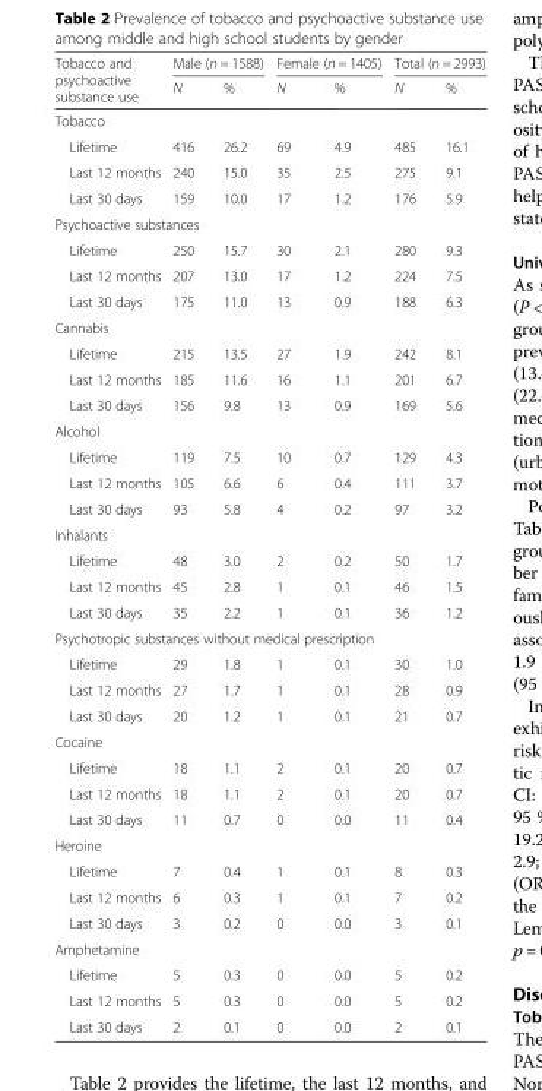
<table><thead><tr><td rowspan="2">Tobacco and psychoactive substance use</td><td colspan="2">Male (n = 1588)</td><td colspan="2">Female (n = 1405)</td><td colspan="2">Total (n = 2993)</td></tr><tr><td>N</td><td>%</td><td>N</td><td>%</td><td>N</td><td>%</td></tr></thead><tbody><tr><td colspan="7">Tobacco</td></tr><tr><td>Lifetime</td><td>416</td><td>26.2</td><td>69</td><td>4.9</td><td>485</td><td>16.1</td></tr><tr><td>Last 12 months</td><td>240</td><td>15.0</td><td>35</td><td>2.5</td><td>275</td><td>9.1</td></tr><tr><td>Last 30 days</td><td>159</td><td>10.0</td><td>17</td><td>1.2</td><td>176</td><td>5.9</td></tr><tr><td colspan="7">Psychoactive substances</td></tr><tr><td>Lifetime</td><td>250</td><td>15.7</td><td>30</td><td>2.1</td><td>280</td><td>9.3</td></tr><tr><td>Last 12 months</td><td>207</td><td>13.0</td><td>17</td><td>1.2</td><td>224</td><td>7.5</td></tr><tr><td>Last 30 days</td><td>175</td><td>11.0</td><td>13</td><td>0.9</td><td>188</td><td>6.3</td></tr><tr><td colspan="7">Cannabis</td></tr><tr><td>Lifetime</td><td>215</td><td>13.5</td><td>27</td><td>1.9</td><td>242</td><td>8.1</td></tr><tr><td>Last 12 months</td><td>185</td><td>11.6</td><td>16</td><td>1.1</td><td>201</td><td>6.7</td></tr><tr><td>Last 30 days</td><td>156</td><td>9.8</td><td>13</td><td>0.9</td><td>169</td><td>5.6</td></tr><tr><td colspan="7">Alcohol</td></tr><tr><td>Lifetime</td><td>119</td><td>7.5</td><td>10</td><td>0.7</td><td>129</td><td>4.3</td></tr><tr><td>Last 12 months</td><td>105</td><td>6.6</td><td>6</td><td>0.4</td><td>111</td><td>3.7</td></tr><tr><td>Last 30 days</td><td>93</td><td>5.8</td><td>4</td><td>0.2</td><td>97</td><td>3.2</td></tr><tr><td colspan="7">Inhalants</td></tr><tr><td>Lifetime</td><td>48</td><td>3.0</td><td>2</td><td>0.2</td><td>50</td><td>1.7</td></tr><tr><td>Last 12 months</td><td>45</td><td>2.8</td><td>1</td><td>0.1</td><td>46</td><td>1.5</td></tr><tr><td>Last 30 days</td><td>35</td><td>2.2</td><td>1</td><td>0.1</td><td>36</td><td>1.2</td></tr><tr><td colspan="7">Psychotropic substances without medical prescription</td></tr><tr><td>Lifetime</td><td>29</td><td>1.8</td><td>1</td><td>0.1</td><td>30</td><td>1.0</td></tr><tr><td>Last 12 months</td><td>27</td><td>1.7</td><td>1</td><td>0.1</td><td>28</td><td>0.9</td></tr><tr><td>Last 30 days</td><td>20</td><td>1.2</td><td>1</td><td>0.1</td><td>21</td><td>0.7</td></tr><tr><td colspan="7">Cocaine</td></tr><tr><td>Lifetime</td><td>18</td><td>1.1</td><td>2</td><td>0.1</td><td>20</td><td>0.7</td></tr><tr><td>Last 12 months</td><td>18</td><td>1.1</td><td>2</td><td>0.1</td><td>20</td><td>0.7</td></tr><tr><td>Last 30 days</td><td>11</td><td>0.7</td><td>0</td><td>0.0</td><td>11</td><td>0.4</td></tr><tr><td colspan="7">Heroine</td></tr><tr><td>Lifetime</td><td>7</td><td>0.4</td><td>1</td><td>0.1</td><td>8</td><td>0.3</td></tr><tr><td>Last 12 months</td><td>6</td><td>0.3</td><td>1</td><td>0.1</td><td>7</td><td>0.2</td></tr><tr><td>Last 30 days</td><td>3</td><td>0.2</td><td>0</td><td>0.0</td><td>3</td><td>0.1</td></tr><tr><td colspan="7">Amphetamine</td></tr><tr><td>Lifetime</td><td>5</td><td>0.3</td><td>0</td><td>0.0</td><td>5</td><td>0.2</td></tr><tr><td>Last 12 months</td><td>5</td><td>0.3</td><td>0</td><td>0.0</td><td>5</td><td>0.2</td></tr><tr><td>Last 30 days</td><td>2</td><td>0.1</td><td>0</td><td>0.0</td><td>2</td><td>0.1</td></tr></tbody></table>